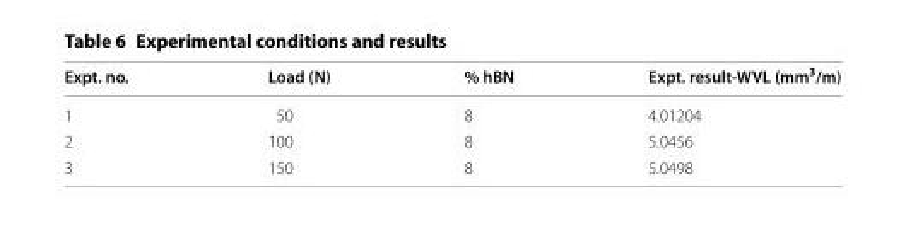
<table><thead><tr><td>Expt. no.</td><td>Load (N)</td><td>% hBN</td><td>Expt. result-WVL (mm<sup>3</sup>/m)</td></tr></thead><tbody><tr><td>1</td><td>50</td><td>8</td><td>4.01204</td></tr><tr><td>2</td><td>100</td><td>8</td><td>5.0456</td></tr><tr><td>3</td><td>150</td><td>8</td><td>5.0498</td></tr></tbody></table>